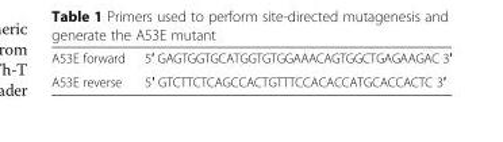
<table><tbody><tr><td>A53E forward</td><td>5′ GAGTGGTGCATGGTGTGGAAACAGTGGCTGAGAAGAC 3′</td></tr><tr><td>A53E reverse</td><td>5′ GTCTTCTCAGCCACTGTTTCCACACCATGCACCACTC 3′</td></tr></tbody></table>